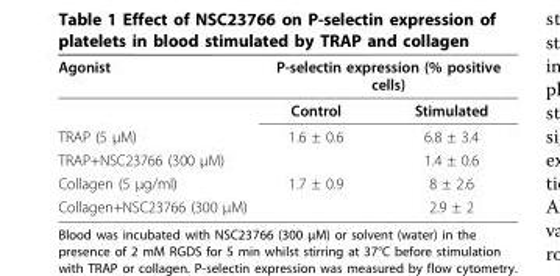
<table><thead><tr><td rowspan="2">Agonist</td><td colspan="2">P-selectin expression (% positive cells)</td></tr><tr><td>Control</td><td>Stimulated</td></tr></thead><tbody><tr><td>TRAP (5 μM)</td><td>1.6 ± 0.6</td><td>6.8 ± 3.4</td></tr><tr><td>TRAP+NSC23766 (300 μM)</td><td></td><td>1.4 ± 0.6</td></tr><tr><td>Collagen (5 μg/ml)</td><td>1.7 ± 0.9</td><td>8 ± 2.6</td></tr><tr><td>Collagen+NSC23766 (300 μM)</td><td></td><td>2.9 ± 2</td></tr></tbody></table>